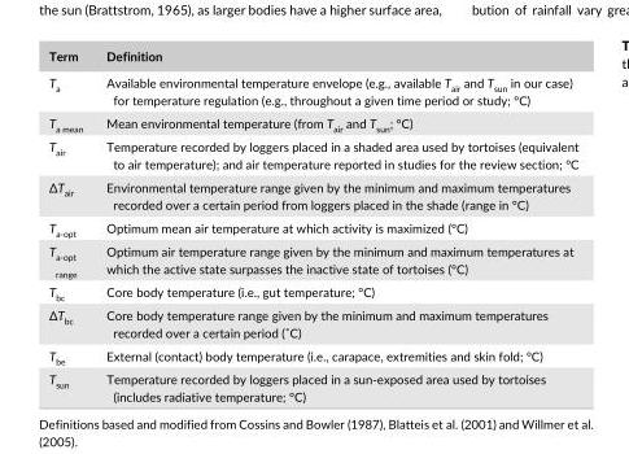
<table><thead><tr><td>Term</td><td>Definition</td></tr></thead><tbody><tr><td>T<sub>a</sub></td><td>Available environmental temperature envelope (e.g., available T<sub>air</sub> and T<sub>sun</sub> in our case) for temperature regulation (e.g., throughout a given time period or study; °C)</td></tr><tr><td>T<sub>a mean</sub></td><td>Mean environmental temperature (from T<sub>air</sub> and T<sub>sun</sub>; °C)</td></tr><tr><td>T<sub>air</sub></td><td>Temperature recorded by loggers placed in a shaded area used by tortoises (equivalent to air temperature); and air temperature reported in studies for the review section; °C</td></tr><tr><td>∆T<sub>air</sub></td><td>Environmental temperature range given by the minimum and maximum temperatures recorded over a certain period from loggers placed in the shade (range in °C)</td></tr><tr><td>T<sub>a-opt</sub></td><td>Optimum mean air temperature at which activity is maximized (°C)</td></tr><tr><td>T<sub>a-opt range</sub></td><td>Optimum air temperature range given by the minimum and maximum temperatures at which the active state surpasses the inactive state of tortoises (°C)</td></tr><tr><td>T<sub>bc</sub></td><td>Core body temperature (i.e., gut temperature; °C)</td></tr><tr><td>∆T<sub>bc</sub></td><td>Core body temperature range given by the minimum and maximum temperatures recorded over a certain period (˚C)</td></tr><tr><td>T<sub>be</sub></td><td>External (contact) body temperature (i.e., carapace, extremities and skin fold; °C)</td></tr><tr><td>T<sub>sun</sub></td><td>Temperature recorded by loggers placed in a sun- exposed area used by tortoises (includes radiative temperature; °C)</td></tr></tbody></table>